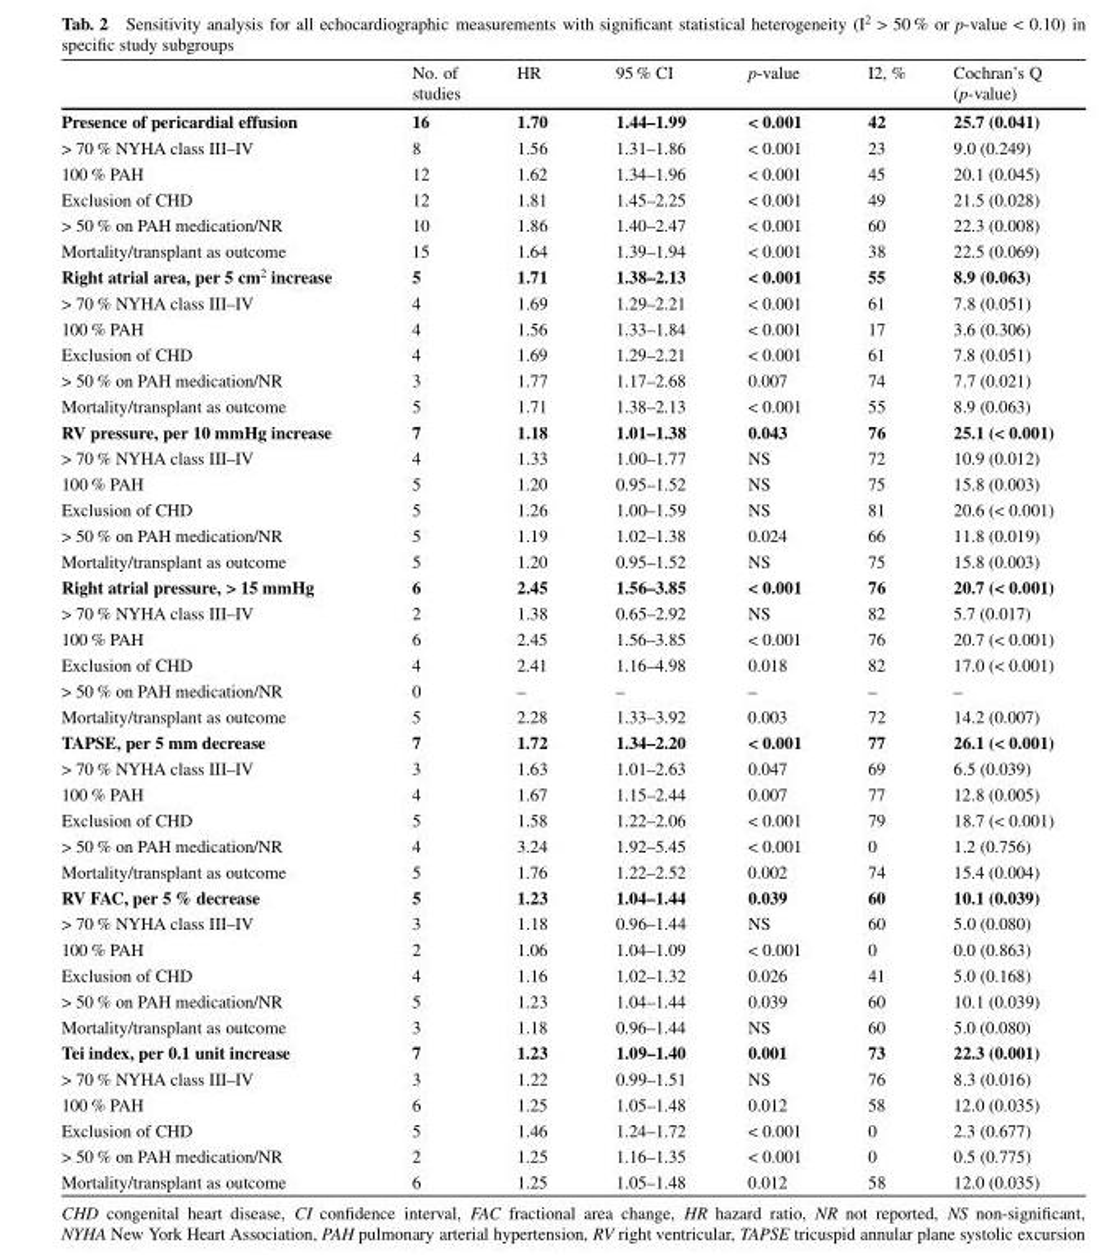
<table><thead><tr><td></td><td>No. of studies</td><td>HR</td><td>95 % CI</td><td>p-value</td><td>I2, %</td><td>Cochran’s Q (p-value)</td></tr></thead><tbody><tr><td>Presence of pericardial effusion</td><td>16</td><td>1.70</td><td>1.44–1.99</td><td>&lt; 0.001</td><td>42</td><td>25.7 (0.041)</td></tr><tr><td>&gt; 70 % NYHA class III–IV</td><td>8</td><td>1.56</td><td>1.31–1.86</td><td>&lt; 0.001</td><td>23</td><td>9.0 (0.249)</td></tr><tr><td>100 % PAH</td><td>12</td><td>1.62</td><td>1.34–1.96</td><td>&lt; 0.001</td><td>45</td><td>20.1 (0.045)</td></tr><tr><td>Exclusion of CHD</td><td>12</td><td>1.81</td><td>1.45–2.25</td><td>&lt; 0.001</td><td>49</td><td>21.5 (0.028)</td></tr><tr><td>&gt; 50 % on PAH medication/NR</td><td>10</td><td>1.86</td><td>1.40–2.47</td><td>&lt; 0.001</td><td>60</td><td>22.3 (0.008)</td></tr><tr><td>Mortality/transplant as outcome</td><td>15</td><td>1.64</td><td>1.39–1.94</td><td>&lt; 0.001</td><td>38</td><td>22.5 (0.069)</td></tr><tr><td>Right atrial area, per 5 cm<sup>2</sup> increase</td><td>5</td><td>1.71</td><td>1.38–2.13</td><td>&lt; 0.001</td><td>55</td><td>8.9 (0.063)</td></tr><tr><td>&gt; 70 % NYHA class III–IV</td><td>4</td><td>1.69</td><td>1.29–2.21</td><td>&lt; 0.001</td><td>61</td><td>7.8 (0.051)</td></tr><tr><td>100 % PAH</td><td>4</td><td>1.56</td><td>1.33–1.84</td><td>&lt; 0.001</td><td>17</td><td>3.6 (0.306)</td></tr><tr><td>Exclusion of CHD</td><td>4</td><td>1.69</td><td>1.29–2.21</td><td>&lt; 0.001</td><td>61</td><td>7.8 (0.051)</td></tr><tr><td>&gt; 50 % on PAH medication/NR</td><td>3</td><td>1.77</td><td>1.17–2.68</td><td>0.007</td><td>74</td><td>7.7 (0.021)</td></tr><tr><td>Mortality/transplant as outcome</td><td>5</td><td>1.71</td><td>1.38–2.13</td><td>&lt; 0.001</td><td>55</td><td>8.9 (0.063)</td></tr><tr><td>RV pressure, per 10 mmHg increase</td><td>7</td><td>1.18</td><td>1.01–1.38</td><td>0.043</td><td>76</td><td>25.1 (&lt; 0.001)</td></tr><tr><td>&gt; 70 % NYHA class III–IV</td><td>4</td><td>1.33</td><td>1.00–1.77</td><td>NS</td><td>72</td><td>10.9 (0.012)</td></tr><tr><td>100 % PAH</td><td>5</td><td>1.20</td><td>0.95–1.52</td><td>NS</td><td>75</td><td>15.8 (0.003)</td></tr><tr><td>Exclusion of CHD</td><td>5</td><td>1.26</td><td>1.00–1.59</td><td>NS</td><td>81</td><td>20.6 (&lt; 0.001)</td></tr><tr><td>&gt; 50 % on PAH medication/NR</td><td>5</td><td>1.19</td><td>1.02–1.38</td><td>0.024</td><td>66</td><td>11.8 (0.019)</td></tr><tr><td>Mortality/transplant as outcome</td><td>5</td><td>1.20</td><td>0.95–1.52</td><td>NS</td><td>75</td><td>15.8 (0.003)</td></tr><tr><td>Right atrial pressure, &gt; 15 mmHg</td><td>6</td><td>2.45</td><td>1.56–3.85</td><td>&lt; 0.001</td><td>76</td><td>20.7 (&lt; 0.001)</td></tr><tr><td>&gt; 70 % NYHA class III–IV</td><td>2</td><td>1.38</td><td>0.65–2.92</td><td>NS</td><td>82</td><td>5.7 (0.017)</td></tr><tr><td>100 % PAH</td><td>6</td><td>2.45</td><td>1.56–3.85</td><td>&lt; 0.001</td><td>76</td><td>20.7 (&lt; 0.001)</td></tr><tr><td>Exclusion of CHD</td><td>4</td><td>2.41</td><td>1.16–4.98</td><td>0.018</td><td>82</td><td>17.0 (&lt; 0.001)</td></tr><tr><td>&gt; 50 % on PAH medication/NR</td><td>0</td><td>–</td><td>–</td><td>–</td><td>–</td><td>–</td></tr><tr><td>Mortality/transplant as outcome</td><td>5</td><td>2.28</td><td>1.33–3.92</td><td>0.003</td><td>72</td><td>14.2 (0.007)</td></tr><tr><td>TAPSE, per 5 mm decrease</td><td>7</td><td>1.72</td><td>1.34–2.20</td><td>&lt; 0.001</td><td>77</td><td>26.1 (&lt; 0.001)</td></tr><tr><td>&gt; 70 % NYHA class III–IV</td><td>3</td><td>1.63</td><td>1.01–2.63</td><td>0.047</td><td>69</td><td>6.5 (0.039)</td></tr><tr><td>100 % PAH</td><td>4</td><td>1.67</td><td>1.15–2.44</td><td>0.007</td><td>77</td><td>12.8 (0.005)</td></tr><tr><td>Exclusion of CHD</td><td>5</td><td>1.58</td><td>1.22–2.06</td><td>&lt; 0.001</td><td>79</td><td>18.7 (&lt; 0.001)</td></tr><tr><td>&gt; 50 % on PAH medication/NR</td><td>4</td><td>3.24</td><td>1.92–5.45</td><td>&lt; 0.001</td><td>0</td><td>1.2 (0.756)</td></tr><tr><td>Mortality/transplant as outcome</td><td>5</td><td>1.76</td><td>1.22–2.52</td><td>0.002</td><td>74</td><td>15.4 (0.004)</td></tr><tr><td>RV FAC, per 5 % decrease</td><td>5</td><td>1.23</td><td>1.04–1.44</td><td>0.039</td><td>60</td><td>10.1 (0.039)</td></tr><tr><td>&gt; 70 % NYHA class III–IV</td><td>3</td><td>1.18</td><td>0.96–1.44</td><td>NS</td><td>60</td><td>5.0 (0.080)</td></tr><tr><td>100 % PAH</td><td>2</td><td>1.06</td><td>1.04–1.09</td><td>&lt; 0.001</td><td>0</td><td>0.0 (0.863)</td></tr><tr><td>Exclusion of CHD</td><td>4</td><td>1.16</td><td>1.02–1.32</td><td>0.026</td><td>41</td><td>5.0 (0.168)</td></tr><tr><td>&gt; 50 % on PAH medication/NR</td><td>5</td><td>1.23</td><td>1.04–1.44</td><td>0.039</td><td>60</td><td>10.1 (0.039)</td></tr><tr><td>Mortality/transplant as outcome</td><td>3</td><td>1.18</td><td>0.96–1.44</td><td>NS</td><td>60</td><td>5.0 (0.080)</td></tr><tr><td>Tei index, per 0.1 unit increase</td><td>7</td><td>1.23</td><td>1.09–1.40</td><td>0.001</td><td>73</td><td>22.3 (0.001)</td></tr><tr><td>&gt; 70 % NYHA class III–IV</td><td>3</td><td>1.22</td><td>0.99–1.51</td><td>NS</td><td>76</td><td>8.3 (0.016)</td></tr><tr><td>100 % PAH</td><td>6</td><td>1.25</td><td>1.05–1.48</td><td>0.012</td><td>58</td><td>12.0 (0.035)</td></tr><tr><td>Exclusion of CHD</td><td>5</td><td>1.46</td><td>1.24–1.72</td><td>&lt; 0.001</td><td>0</td><td>2.3 (0.677)</td></tr><tr><td>&gt; 50 % on PAH medication/NR</td><td>2</td><td>1.25</td><td>1.16–1.35</td><td>&lt; 0.001</td><td>0</td><td>0.5 (0.775)</td></tr><tr><td>Mortality/transplant as outcome</td><td>6</td><td>1.25</td><td>1.05–1.48</td><td>0.012</td><td>58</td><td>12.0 (0.035)</td></tr></tbody></table>